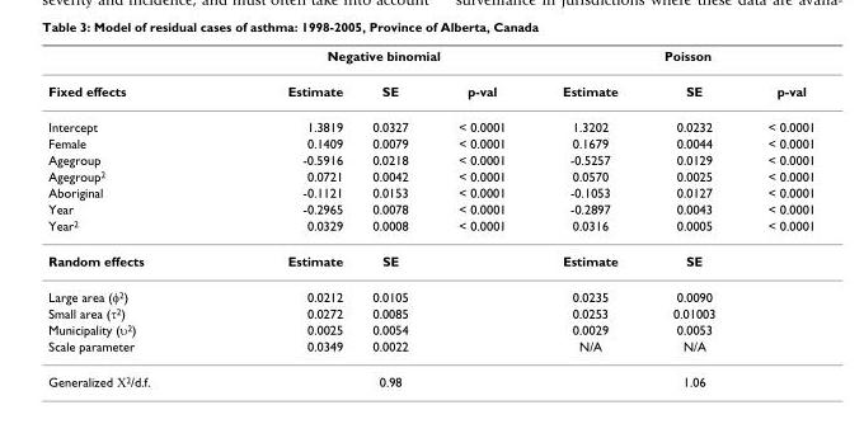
<table><thead><tr><td rowspan="2">Fixed effects</td><td colspan="3">Negative binomial</td><td colspan="3">Poisson</td></tr><tr><td>Estimate</td><td>SE</td><td>p-val</td><td>Estimate</td><td>SE</td><td>p-val</td></tr></thead><tbody><tr><td>Intercept</td><td>1.3819</td><td>0.0327</td><td>&lt; 0.0001</td><td>1.3202</td><td>0.0232</td><td>&lt; 0.0001</td></tr><tr><td>Female</td><td>0.1409</td><td>0.0079</td><td>&lt; 0.0001</td><td>0.1679</td><td>0.0044</td><td>&lt; 0.0001</td></tr><tr><td>Agegroup</td><td>-0.5916</td><td>0.0218</td><td>&lt; 0.0001</td><td>-0.5257</td><td>0.0129</td><td>&lt; 0.0001</td></tr><tr><td>Agegroup<sup>2</sup></td><td>0.0721</td><td>0.0042</td><td>&lt; 0.0001</td><td>0.0570</td><td>0.0025</td><td>&lt; 0.0001</td></tr><tr><td>Aboriginal</td><td>-0.1121</td><td>0.0153</td><td>&lt; 0.0001</td><td>-0.1053</td><td>0.0127</td><td>&lt; 0.0001</td></tr><tr><td>Year</td><td>-0.2965</td><td>0.0078</td><td>&lt; 0.0001</td><td>-0.2897</td><td>0.0043</td><td>&lt; 0.0001</td></tr><tr><td>Year<sup>2</sup></td><td>0.0329</td><td>0.0008</td><td>&lt; 0.0001</td><td>0.0316</td><td>0.0005</td><td>&lt; 0.0001</td></tr><tr><td>Random effects</td><td>Estimate</td><td>SE</td><td></td><td>Estimate</td><td>SE</td><td></td></tr><tr><td>Large area (φ<sup>2</sup>)</td><td>0.0212</td><td>0.0105</td><td></td><td>0.0235</td><td>0.0090</td><td></td></tr><tr><td>Small area (τ<sup>2</sup>)</td><td>0.0272</td><td>0.0085</td><td></td><td>0.0253</td><td>0.01003</td><td></td></tr><tr><td>Municipality (υ<sup>2</sup>)</td><td>0.0025</td><td>0.0054</td><td></td><td>0.0029</td><td>0.0053</td><td></td></tr><tr><td>Scale parameter</td><td>0.0349</td><td>0.0022</td><td></td><td>N/A</td><td>N/A</td><td></td></tr><tr><td>Generalized Χ<sup>2</sup>/d.f.</td><td></td><td>0.98</td><td></td><td></td><td>1.06</td><td></td></tr></tbody></table>